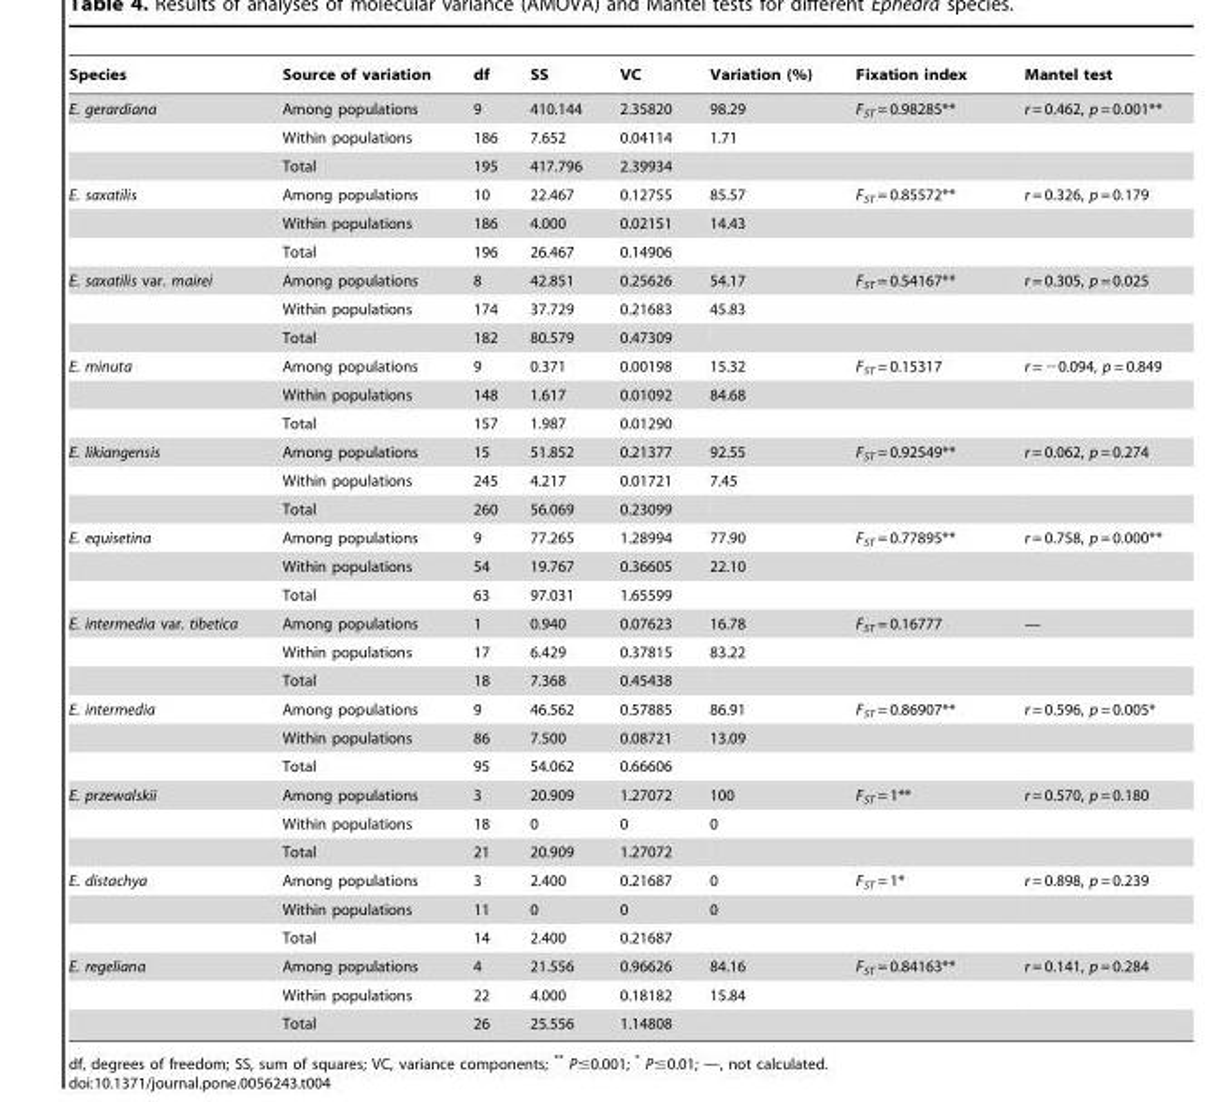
<table><thead><tr><td>Species</td><td>Source of variation</td><td>df</td><td>SS</td><td>VC</td><td>Variation (%)</td><td>Fixation index</td><td>Mantel test</td></tr></thead><tbody><tr><td rowspan="3">E. gerardiana</td><td>Among populations</td><td>9</td><td>410.144</td><td>2.35820</td><td>98.29</td><td>F<sub>ST</sub> = 0.98285**</td><td>r = 0.462, p = 0.001**</td></tr><tr><td>Within populations</td><td>186</td><td>7.652</td><td>0.04114</td><td>1.71</td><td></td><td></td></tr><tr><td>Total</td><td>195</td><td>417.796</td><td>2.39934</td><td></td><td></td><td></td></tr><tr><td rowspan="3">E. saxatilis</td><td>Among populations</td><td>10</td><td>22.467</td><td>0.12755</td><td>85.57</td><td>F<sub>ST</sub> = 0.85572**</td><td>r = 0.326, p = 0.179</td></tr><tr><td>Within populations</td><td>186</td><td>4.000</td><td>0.02151</td><td>14.43</td><td></td><td></td></tr><tr><td>Total</td><td>196</td><td>26.467</td><td>0.14906</td><td></td><td></td><td></td></tr><tr><td rowspan="3">E. saxatilis var. mairei</td><td>Among populations</td><td>8</td><td>42.851</td><td>0.25626</td><td>54.17</td><td>F<sub>ST</sub> = 0.54167**</td><td>r = 0.305, p = 0.025</td></tr><tr><td>Within populations</td><td>174</td><td>37.729</td><td>0.21683</td><td>45.83</td><td></td><td></td></tr><tr><td>Total</td><td>182</td><td>80.579</td><td>0.47309</td><td></td><td></td><td></td></tr><tr><td rowspan="3">E. minuta</td><td>Among populations</td><td>9</td><td>0.371</td><td>0.00198</td><td>15.32</td><td>F<sub>ST</sub> = 0.15317</td><td>r = −0.094, p = 0.849</td></tr><tr><td>Within populations</td><td>148</td><td>1.617</td><td>0.01092</td><td>84.68</td><td></td><td></td></tr><tr><td>Total</td><td>157</td><td>1.987</td><td>0.01290</td><td></td><td></td><td></td></tr><tr><td rowspan="3">E. likiangensis</td><td>Among populations</td><td>15</td><td>51.852</td><td>0.21377</td><td>92.55</td><td>F<sub>ST</sub> = 0.92549**</td><td>r = 0.062, p = 0.274</td></tr><tr><td>Within populations</td><td>245</td><td>4.217</td><td>0.01721</td><td>7.45</td><td></td><td></td></tr><tr><td>Total</td><td>260</td><td>56.069</td><td>0.23099</td><td></td><td></td><td></td></tr><tr><td rowspan="3">E. equisetina</td><td>Among populations</td><td>9</td><td>77.265</td><td>1.28994</td><td>77.90</td><td>F<sub>ST</sub> = 0.77895**</td><td>r = 0.758, p = 0.000**</td></tr><tr><td>Within populations</td><td>54</td><td>19.767</td><td>0.36605</td><td>22.10</td><td></td><td></td></tr><tr><td>Total</td><td>63</td><td>97.031</td><td>1.65599</td><td></td><td></td><td></td></tr><tr><td rowspan="3">E. intermedia var. tibetica</td><td>Among populations</td><td>1</td><td>0.940</td><td>0.07623</td><td>16.78</td><td>F<sub>ST</sub> = 0.16777</td><td>—</td></tr><tr><td>Within populations</td><td>17</td><td>6.429</td><td>0.37815</td><td>83.22</td><td></td><td></td></tr><tr><td>Total</td><td>18</td><td>7.368</td><td>0.45438</td><td></td><td></td><td></td></tr><tr><td rowspan="3">E. intermedia</td><td>Among populations</td><td>9</td><td>46.562</td><td>0.57885</td><td>86.91</td><td>F<sub>ST</sub> = 0.86907**</td><td>r = 0.596, p = 0.005*</td></tr><tr><td>Within populations</td><td>86</td><td>7.500</td><td>0.08721</td><td>13.09</td><td></td><td></td></tr><tr><td>Total</td><td>95</td><td>54.062</td><td>0.66606</td><td></td><td></td><td></td></tr><tr><td rowspan="3">E. przewalskii</td><td>Among populations</td><td>3</td><td>20.909</td><td>1.27072</td><td>100</td><td>F<sub>ST</sub> = 1**</td><td>r = 0.570, p = 0.180</td></tr><tr><td>Within populations</td><td>18</td><td>0</td><td>0</td><td>0</td><td></td><td></td></tr><tr><td>Total</td><td>21</td><td>20.909</td><td>1.27072</td><td></td><td></td><td></td></tr><tr><td rowspan="3">E. distachya</td><td>Among populations</td><td>3</td><td>2.400</td><td>0.21687</td><td>0</td><td>F<sub>ST</sub> = 1*</td><td>r = 0.898, p = 0.239</td></tr><tr><td>Within populations</td><td>11</td><td>0</td><td>0</td><td>0</td><td></td><td></td></tr><tr><td>Total</td><td>14</td><td>2.400</td><td>0.21687</td><td></td><td></td><td></td></tr><tr><td rowspan="3">E. regeliana</td><td>Among populations</td><td>4</td><td>21.556</td><td>0.96626</td><td>84.16</td><td>F<sub>ST</sub> = 0.84163**</td><td>r = 0.141, p = 0.284</td></tr><tr><td>Within populations</td><td>22</td><td>4.000</td><td>0.18182</td><td>15.84</td><td></td><td></td></tr><tr><td>Total</td><td>26</td><td>25.556</td><td>1.14808</td><td></td><td></td><td></td></tr></tbody></table>